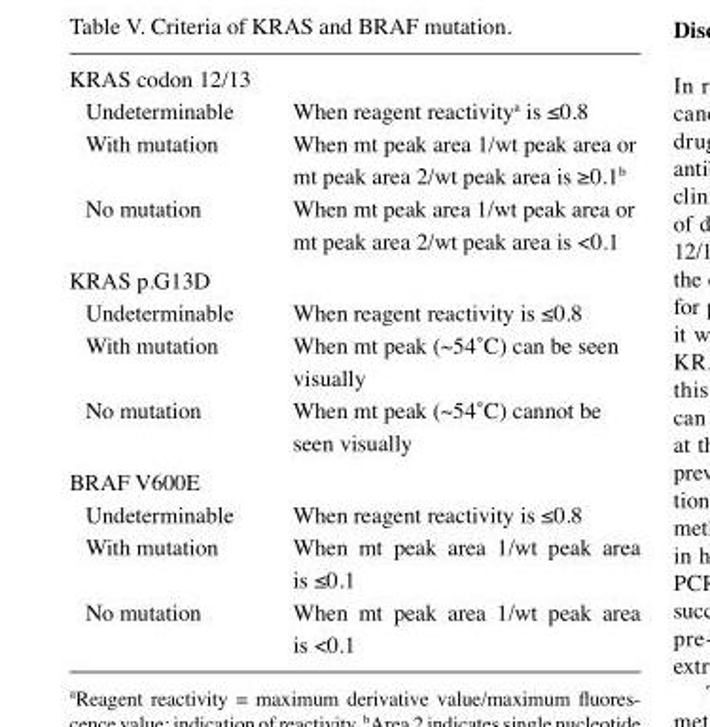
<table><tbody><tr><td colspan="2">KRAS codon 12/13</td></tr><tr><td>Undeterminable</td><td>When reagent reactivity<sup>a</sup> is ≤0.8</td></tr><tr><td>With mutation</td><td>When mt peak area 1/wt peak area or mt peak area 2/wt peak area is ≥0.1<sup>b</sup></td></tr><tr><td>No mutation</td><td>When mt peak area 1/wt peak area or mt peak area 2/wt peak area is &lt;0.1</td></tr><tr><td colspan="2">KRAS p.G13D</td></tr><tr><td>Undeterminable</td><td>When reagent reactivity is ≤0.8</td></tr><tr><td>With mutation</td><td>When mt peak (~54˚C) can be seen visually</td></tr><tr><td>No mutation</td><td>When mt peak (~54˚C) cannot be seen visually</td></tr><tr><td colspan="2">BRAF V600E</td></tr><tr><td>Undeterminable</td><td>When reagent reactivity is ≤0.8</td></tr><tr><td>With mutation</td><td>When mt peak area 1/wt peak area is ≤0.1</td></tr><tr><td>No mutation</td><td>When mt peak area 1/wt peak area is &lt;0.1</td></tr></tbody></table>